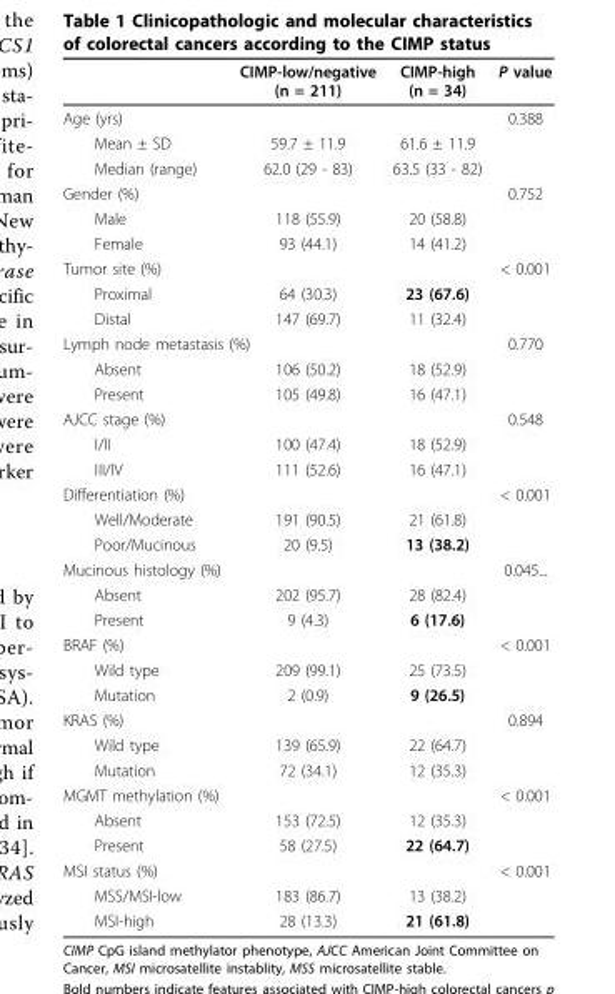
<table><thead><tr><td></td><td>CIMP-low/negative (n = 211)</td><td>CIMP-high (n = 34)</td><td>P value</td></tr></thead><tbody><tr><td>Age (yrs)</td><td></td><td></td><td>0.388</td></tr><tr><td>Mean ± SD</td><td>59.7 ± 11.9</td><td>61.6 ± 11.9</td><td></td></tr><tr><td>Median (range)</td><td>62.0 (29 - 83)</td><td>63.5 (33 - 82)</td><td></td></tr><tr><td>Gender (%)</td><td></td><td></td><td>0.752</td></tr><tr><td>Male</td><td>118 (55.9)</td><td>20 (58.8)</td><td></td></tr><tr><td>Female</td><td>93 (44.1)</td><td>14 (41.2)</td><td></td></tr><tr><td>Tumor site (%)</td><td></td><td></td><td>&lt; 0.001</td></tr><tr><td>Proximal</td><td>64 (30.3)</td><td>23 (67.6)</td><td></td></tr><tr><td>Distal</td><td>147 (69.7)</td><td>11 (32.4)</td><td></td></tr><tr><td colspan="2">Lymph node metastasis (%)</td><td></td><td>0.770</td></tr><tr><td>Absent</td><td>106 (50.2)</td><td>18 (52.9)</td><td></td></tr><tr><td>Present</td><td>105 (49.8)</td><td>16 (47.1)</td><td></td></tr><tr><td>AJCC stage (%)</td><td></td><td></td><td>0.548</td></tr><tr><td>I/II</td><td>100 (47.4)</td><td>18 (52.9)</td><td></td></tr><tr><td>III/IV</td><td>111 (52.6)</td><td>16 (47.1)</td><td></td></tr><tr><td>Differentiation (%)</td><td></td><td></td><td>&lt; 0.001</td></tr><tr><td>Well/Moderate</td><td>191 (90.5)</td><td>21 (61.8)</td><td></td></tr><tr><td>Poor/Mucinous</td><td>20 (9.5)</td><td>13 (38.2)</td><td></td></tr><tr><td>Mucinous histology (%)</td><td></td><td></td><td>0.045...</td></tr><tr><td>Absent</td><td>202 (95.7)</td><td>28 (82.4)</td><td></td></tr><tr><td>Present</td><td>9 (4.3)</td><td>6 (17.6)</td><td></td></tr><tr><td>BRAF (%)</td><td></td><td></td><td>&lt; 0.001</td></tr><tr><td>Wild type</td><td>209 (99.1)</td><td>25 (73.5)</td><td></td></tr><tr><td>Mutation</td><td>2 (0.9)</td><td>9 (26.5)</td><td></td></tr><tr><td>KRAS (%)</td><td></td><td></td><td>0.894</td></tr><tr><td>Wild type</td><td>139 (65.9)</td><td>22 (64.7)</td><td></td></tr><tr><td>Mutation</td><td>72 (34.1)</td><td>12 (35.3)</td><td></td></tr><tr><td>MGMT methylation (%)</td><td></td><td></td><td>&lt; 0.001</td></tr><tr><td>Absent</td><td>153 (72.5)</td><td>12 (35.3)</td><td></td></tr><tr><td>Present</td><td>58 (27.5)</td><td>22 (64.7)</td><td></td></tr><tr><td>MSI status (%)</td><td></td><td></td><td>&lt; 0.001</td></tr><tr><td>MSS/MSI-low</td><td>183 (86.7)</td><td>13 (38.2)</td><td></td></tr><tr><td>MSI-high</td><td>28 (13.3)</td><td>21 (61.8)</td><td></td></tr></tbody></table>